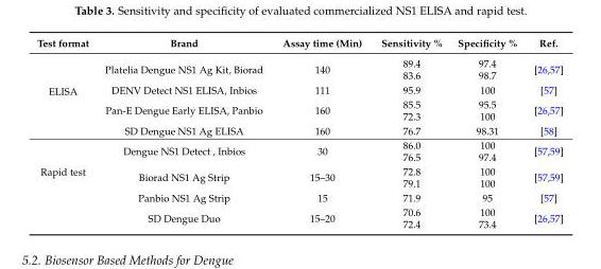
<table><thead><tr><td>Test format</td><td>Brand</td><td>Assay time (Min)</td><td>Sensitivity %</td><td>Specificity %</td><td>Ref.</td></tr></thead><tbody><tr><td rowspan="4">ELISA</td><td>Platelia Dengue NS1 Ag Kit, Biorad</td><td>140</td><td>89.4 83.6</td><td>97.4 98.7</td><td>[26,57]</td></tr><tr><td>DENV Detect NS1 ELISA, Inbios</td><td>111</td><td>95.9</td><td>100</td><td>[57]</td></tr><tr><td>Pan-E Dengue Early ELISA, Panbio</td><td>160</td><td>85.5 72.3</td><td>95.5 100</td><td>[26,57]</td></tr><tr><td>SD Dengue NS1 Ag ELISA</td><td>160</td><td>76.7</td><td>98.31</td><td>[58]</td></tr><tr><td rowspan="4">Rapid test</td><td>Dengue NS1 Detect , Inbios</td><td>30</td><td>86.0 76.5</td><td>100 97.4</td><td>[57,59]</td></tr><tr><td>Biorad NS1 Ag Strip</td><td>15–30</td><td>72.8 79.1</td><td>100 100</td><td>[57,59]</td></tr><tr><td>Panbio NS1 Ag Strip</td><td>15</td><td>71.9</td><td>95</td><td>[57]</td></tr><tr><td>SD Dengue Duo</td><td>15–20</td><td>70.6 72.4</td><td>100 73.4</td><td>[26,57]</td></tr></tbody></table>